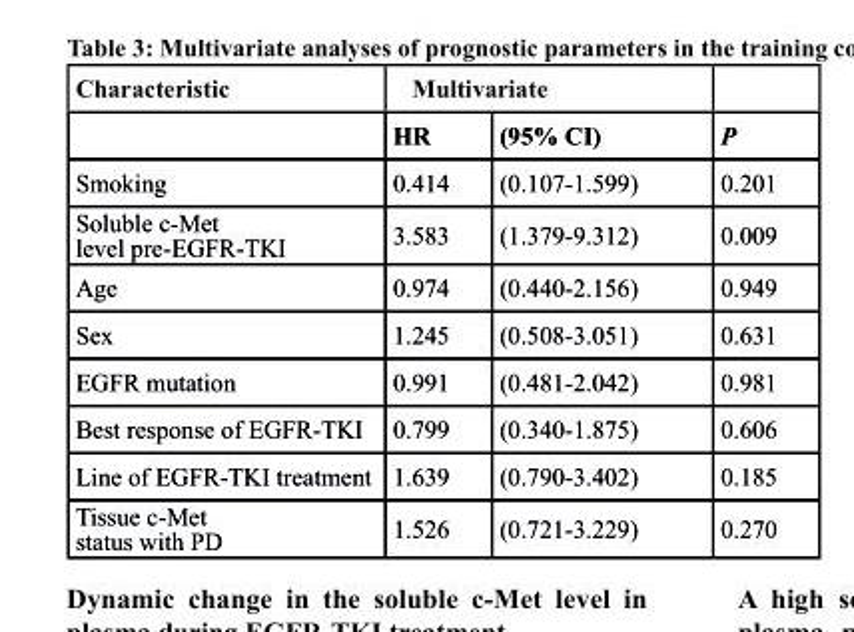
<table><thead><tr><td rowspan="2">characteristic</td><td colspan="2">Multivariate</td><td rowspan="2">P</td></tr><tr><td>Hr</td><td>(95% cI)</td></tr></thead><tbody><tr><td>Smoking</td><td>0.414</td><td>(0.107-1.599)</td><td>0.201</td></tr><tr><td>Soluble c-Met level pre-EGFR-TKI</td><td>3.583</td><td>(1.379-9.312)</td><td>0.009</td></tr><tr><td>Age</td><td>0.974</td><td>(0.440-2.156)</td><td>0.949</td></tr><tr><td>Sex</td><td>1.245</td><td>(0.508-3.051)</td><td>0.631</td></tr><tr><td>EGFR mutation</td><td>0.991</td><td>(0.481-2.042)</td><td>0.981</td></tr><tr><td>Best response of EGFR-TKI</td><td>0.799</td><td>(0.340-1.875)</td><td>0.606</td></tr><tr><td>Line of EGFR-TKI treatment</td><td>1.639</td><td>(0.790-3.402)</td><td>0.185</td></tr><tr><td>Tissue c-Met status with PD</td><td>1.526</td><td>(0.721-3.229)</td><td>0.270</td></tr></tbody></table>